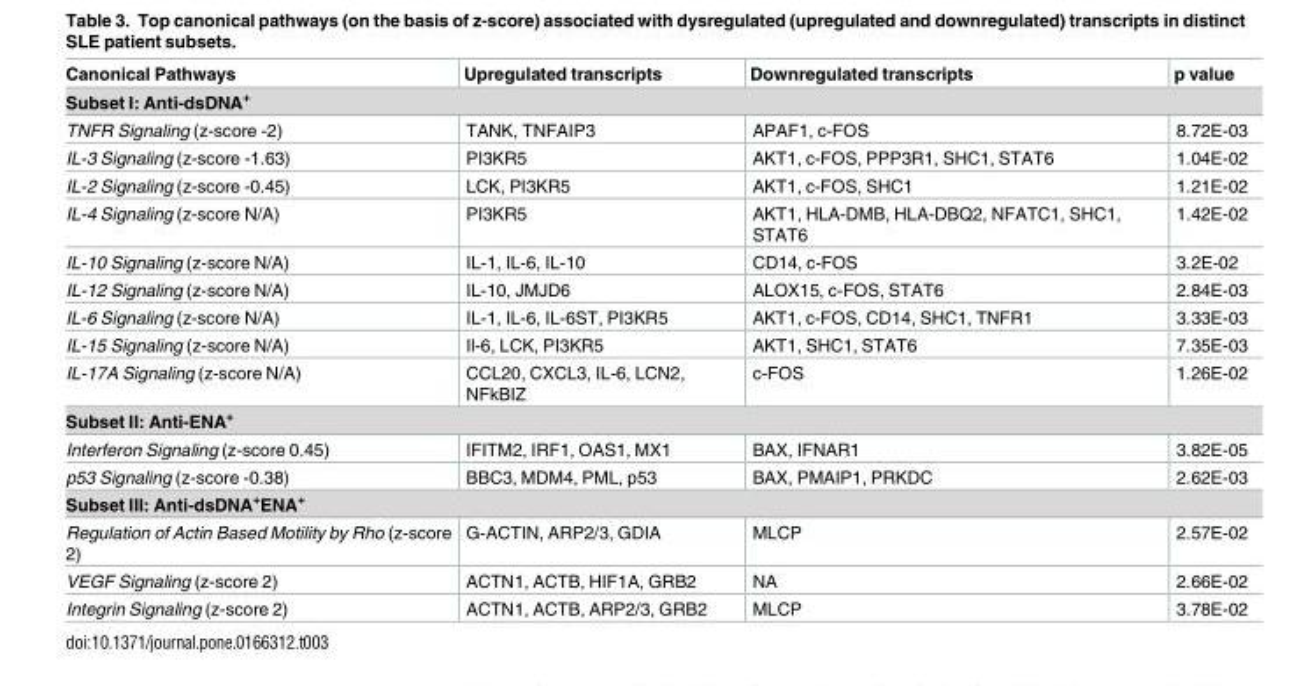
<table><thead><tr><td>Canonical Pathways</td><td>Upregulated transcripts</td><td>Downregulated transcripts</td><td>p value</td></tr></thead><tbody><tr><td colspan="4">Subset I: Anti-dsDNA<sup>+</sup></td></tr><tr><td>TNFR Signaling (z-score -2)</td><td>TANK, TNFAIP3</td><td>APAF1, c-FOS</td><td>8.72E-03</td></tr><tr><td>IL-3 Signaling (z-score -1.63)</td><td>PI3KR5</td><td>AKT1, c-FOS, PPP3R1, SHC1, STAT6</td><td>1.04E-02</td></tr><tr><td>IL-2 Signaling (z-score -0.45)</td><td>LCK, PI3KR5</td><td>AKT1, c-FOS, SHC1</td><td>1.21E-02</td></tr><tr><td>IL-4 Signaling (z-score N/A)</td><td>PI3KR5</td><td>AKT1, HLA-DMB, HLA-DBQ2, NFATC1, SHC1, STAT6</td><td>1.42E-02</td></tr><tr><td>IL-10 Signaling (z-score N/A)</td><td>IL-1, IL-6, IL-10</td><td>CD14, c-FOS</td><td>3.2E-02</td></tr><tr><td>IL-12 Signaling (z-score N/A)</td><td>IL-10, JMJD6</td><td>ALOX15, c-FOS, STAT6</td><td>2.84E-03</td></tr><tr><td>IL-6 Signaling (z-score N/A)</td><td>IL-1, IL-6, IL-6ST, PI3KR5</td><td>AKT1, c-FOS, CD14, SHC1, TNFR1</td><td>3.33E-03</td></tr><tr><td>IL-15 Signaling (z-score N/A)</td><td>Il-6, LCK, PI3KR5</td><td>AKT1, SHC1, STAT6</td><td>7.35E-03</td></tr><tr><td>IL-17A Signaling (z-score N/A)</td><td>CCL20, CXCL3, IL-6, LCN2, NFkBIZ</td><td>c-FOS</td><td>1.26E-02</td></tr><tr><td colspan="4">Subset II: Anti-ENA<sup>+</sup></td></tr><tr><td>Interferon Signaling (z-score 0.45)</td><td>IFITM2, IRF1, OAS1, MX1</td><td>BAX, IFNAR1</td><td>3.82E-05</td></tr><tr><td>p53 Signaling (z-score -0.38)</td><td>BBC3, MDM4, PML, p53</td><td>BAX, PMAIP1, PRKDC</td><td>2.62E-03</td></tr><tr><td colspan="4">Subset III: Anti-dsDNA<sup>+</sup>ENA<sup>+</sup></td></tr><tr><td>Regulation of Actin Based Motility by Rho (z-score 2)</td><td>G-ACTIN, ARP2/3, GDIA</td><td>MLCP</td><td>2.57E-02</td></tr><tr><td>VEGF Signaling (z-score 2)</td><td>ACTN1, ACTB, HIF1A, GRB2</td><td>NA</td><td>2.66E-02</td></tr><tr><td>Integrin Signaling (z-score 2)</td><td>ACTN1, ACTB, ARP2/3, GRB2</td><td>MLCP</td><td>3.78E-02</td></tr></tbody></table>